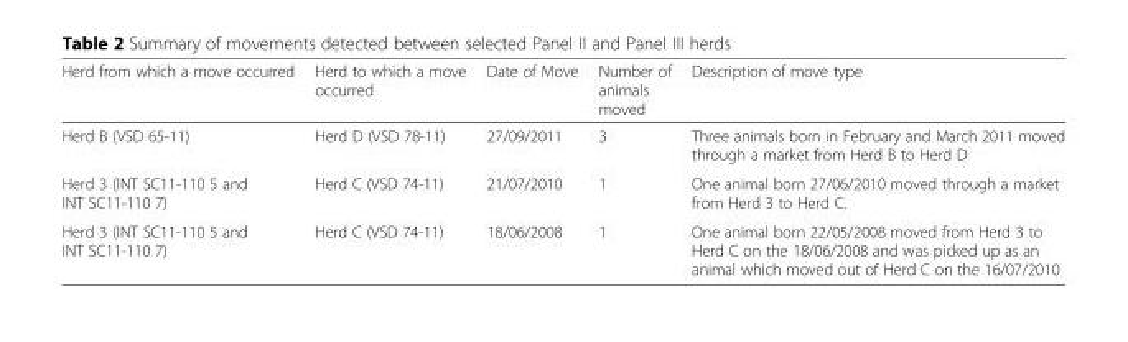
<table><thead><tr><td>Herd from which a move occurred</td><td>Herd to which a move occurred</td><td>Date of Move</td><td>Number of animals moved</td><td>Description of move type</td></tr></thead><tbody><tr><td>Herd B (VSD 65-11)</td><td>Herd D (VSD 78-11)</td><td>27/09/2011</td><td>3</td><td>Three animals born in February and March 2011 moved through a market from Herd B to Herd D</td></tr><tr><td>Herd 3 (INT SC11-110 5 and INT SC11-110 7)</td><td>Herd C (VSD 74-11)</td><td>21/07/2010</td><td>1</td><td>One animal born 27/06/2010 moved through a market from Herd 3 to Herd C.</td></tr><tr><td>Herd 3 (INT SC11-110 5 and INT SC11-110 7)</td><td>Herd C (VSD 74-11)</td><td>18/06/2008</td><td>1</td><td>One animal born 22/05/2008 moved from Herd 3 to Herd C on the 18/06/2008 and was picked up as an animal which moved out of Herd C on the 16/07/2010</td></tr></tbody></table>